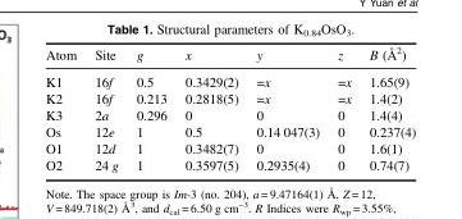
<table><thead><tr><td>Atom</td><td>Site</td><td>g</td><td>x</td><td>y</td><td>z</td><td>B (Å<sup>2</sup>)</td></tr></thead><tbody><tr><td>K1</td><td>16f</td><td>0.5</td><td>0.3429(2)</td><td>=x</td><td>=x</td><td>1.65(9)</td></tr><tr><td>K2</td><td>16f</td><td>0.213</td><td>0.2818(5)</td><td>=x</td><td>=x</td><td>1.4(2)</td></tr><tr><td>K3</td><td>2a</td><td>0.296</td><td>0</td><td>0</td><td>0</td><td>1.4(4)</td></tr><tr><td>Os</td><td>12e</td><td>1</td><td>0.5</td><td>0.14 047(3)</td><td>0</td><td>0.237(4)</td></tr><tr><td>O1</td><td>12d</td><td>1</td><td>0.3482(7)</td><td>0</td><td>0</td><td>1.6(1)</td></tr><tr><td>O2</td><td>24 g</td><td>1</td><td>0.3597(5)</td><td>0.2935(4)</td><td>0</td><td>0.74(7)</td></tr></tbody></table>